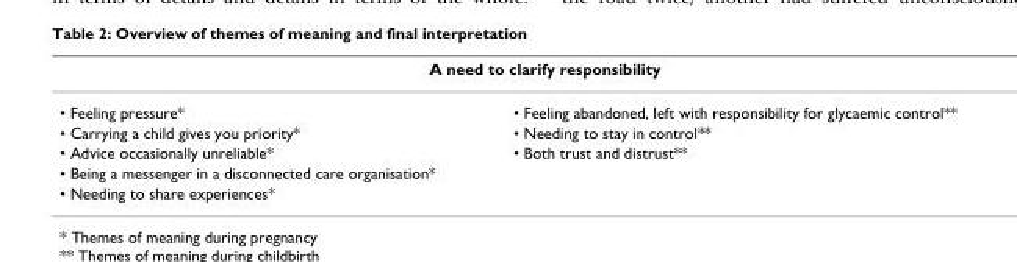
<table><thead><tr><td colspan="2">A need to clarify responsibility</td></tr><tr><td>• Feeling pressure*</td><td>• Feeling abandoned, left with responsibility for glycaemic control**</td></tr></thead><tbody><tr><td>• Carrying a child gives you priority*</td><td>• Needing to stay in control**</td></tr><tr><td>• Advice occasionally unreliable*</td><td>• Both trust and distrust**</td></tr><tr><td colspan="2">• Being a messenger in a disconnected care organisation*</td></tr><tr><td>• Needing to share experiences*</td><td></td></tr></tbody></table>